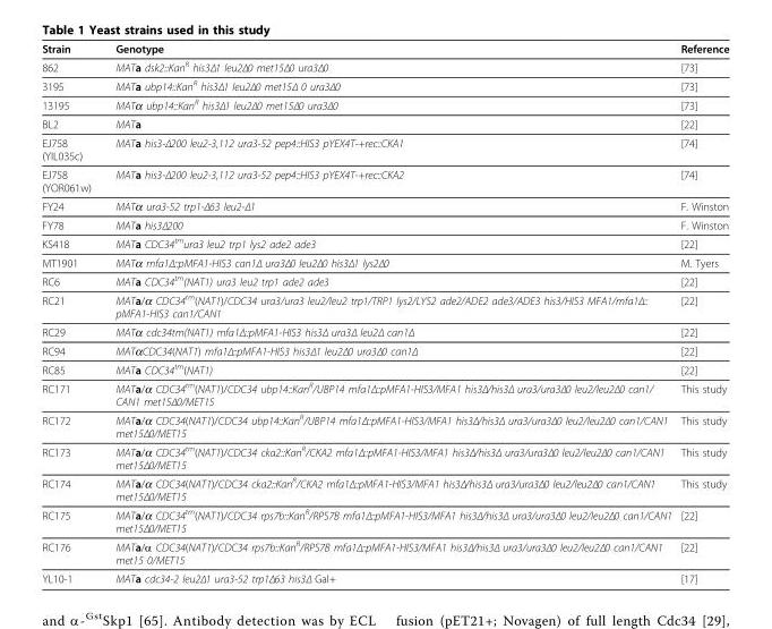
<table><thead><tr><td>Strain</td><td>Genotype</td><td>Reference</td></tr></thead><tbody><tr><td>862</td><td>MATa dsk2::Kan<sup>R</sup> his3Δ1 leu2Δ0 met15Δ0 ura3Δ0</td><td>[73]</td></tr><tr><td>3195</td><td>MATa ubp14::Kan<sup>R</sup> his3Δ1 leu2Δ0 met15Δ 0 ura3Δ0</td><td>[73]</td></tr><tr><td>13195</td><td>MATα ubp14::Kan<sup>R</sup> his3Δ1 leu2Δ0 met15Δ0 ura3Δ0</td><td>[73]</td></tr><tr><td>BL2</td><td>MATa</td><td>[22]</td></tr><tr><td>EJ758 (YIL035c)</td><td>MATa his3-Δ200 leu2-3,112 ura3-52 pep4::HIS3 pYEX4T-+rec::CKA1</td><td>[74]</td></tr><tr><td>EJ758 (YOR061w)</td><td>MATa his3-Δ200 leu2-3,112 ura3-52 pep4::HIS3 pYEX4T-+rec::CKA2</td><td>[74]</td></tr><tr><td>FY24</td><td>MATα ura3-52 trp1-Δ63 leu2-Δ1</td><td>F. Winston</td></tr><tr><td>FY78</td><td>MATa his3Δ200</td><td>F. Winston</td></tr><tr><td>KS418</td><td>MATa CDC34<sup>tm</sup>ura3 leu2 trp1 lys2 ade2 ade3</td><td>[22]</td></tr><tr><td>MT1901</td><td>MATα mfa1Δ::pMFA1-HIS3 can1Δ ura3Δ0 leu2Δ0 his3Δ1 lys2Δ0</td><td>M. Tyers</td></tr><tr><td>RC6</td><td>MATa CDC34<sup>tm</sup>(NAT1) ura3 leu2 trp1 ade2 ade3</td><td>[22]</td></tr><tr><td>RC21</td><td>MATa/α CDC34<sup>tm</sup>(NAT1)/CDC34 ura3/ura3 leu2/leu2 trp1/TRP1 lys2/LYS2 ade2/ADE2 ade3/ADE3 his3/HIS3 MFA1/mfa1Δ:: pMFA1-HIS3 can1/CAN1</td><td>[22]</td></tr><tr><td>RC29</td><td>MATα cdc34tm(NAT1) mfa1Δ::pMFA1-HIS3 his3Δ ura3Δ leu2Δ can1Δ</td><td>[22]</td></tr><tr><td>RC94</td><td>MATαCDC34(NAT1) mfa1Δ::pMFA1-HIS3 his3Δ1 leu2Δ0 ura3Δ0 can1Δ</td><td>[22]</td></tr><tr><td>RC85</td><td>MATa CDC34<sup>tm</sup>(NAT1)</td><td>[22]</td></tr><tr><td>RC171</td><td>MATa/α CDC34<sup>tm</sup>(NAT1)/CDC34 ubp14::Kan<sup>R</sup>/UBP14 mfa1Δ::pMFA1-HIS3/MFA1 his3Δ/his3Δ ura3/ura3Δ0 leu2/leu2Δ0 can1/ CAN1 met15Δ0/MET15</td><td>This study</td></tr><tr><td>RC172</td><td>MATa/α CDC34(NAT1)/CDC34 ubp14::Kan<sup>R</sup>/UBP14 mfa1Δ::pMFA1-HIS3/MFA1 his3Δ/his3Δ ura3/ura3Δ0 leu2/leu2Δ0 can1/CAN1 met15Δ0/MET15</td><td>This study</td></tr><tr><td>RC173</td><td>MATa/α CDC34<sup>tm</sup>(NAT1)/CDC34 cka2::Kan<sup>R</sup>/CKA2 mfa1Δ::pMFA1-HIS3/MFA1 his3Δ/his3Δ ura3/ura3Δ0 leu2/leu2Δ0 can1/CAN1 met15Δ0/MET15</td><td>This study</td></tr><tr><td>RC174</td><td>MATa/α CDC34(NAT1)/CDC34 cka2::Kan<sup>R</sup>/CKA2 mfa1Δ::pMFA1-HIS3/MFA1 his3Δ/his3Δ ura3/ura3Δ0 leu2/leu2Δ0 can1/CAN1 met15Δ0/MET15</td><td>This study</td></tr><tr><td>RC175</td><td>MATa/α CDC34<sup>tm</sup>(NAT1)/CDC34 rps7b::Kan<sup>R</sup>/RPS7B mfa1Δ::pMFA1-HIS3/MFA1 his3Δ/his3Δ ura3/ura3Δ0 leu2/leu2Δ0 can1/CAN1 met15Δ0/MET15</td><td>[22]</td></tr><tr><td>RC176</td><td>MATa/α CDC34(NAT1)/CDC34 rps7b::Kan<sup>R</sup>/RPS7B mfa1Δ::pMFA1-HIS3/MFA1 his3Δ/his3Δ ura3/ura3Δ0 leu2/leu2Δ0 can1/CAN1 met15 0/MET15</td><td>[22]</td></tr><tr><td>YL10-1</td><td>MATa cdc34-2 leu2Δ1 ura3-52 trp1Δ63 his3Δ Gal+</td><td>[17]</td></tr></tbody></table>